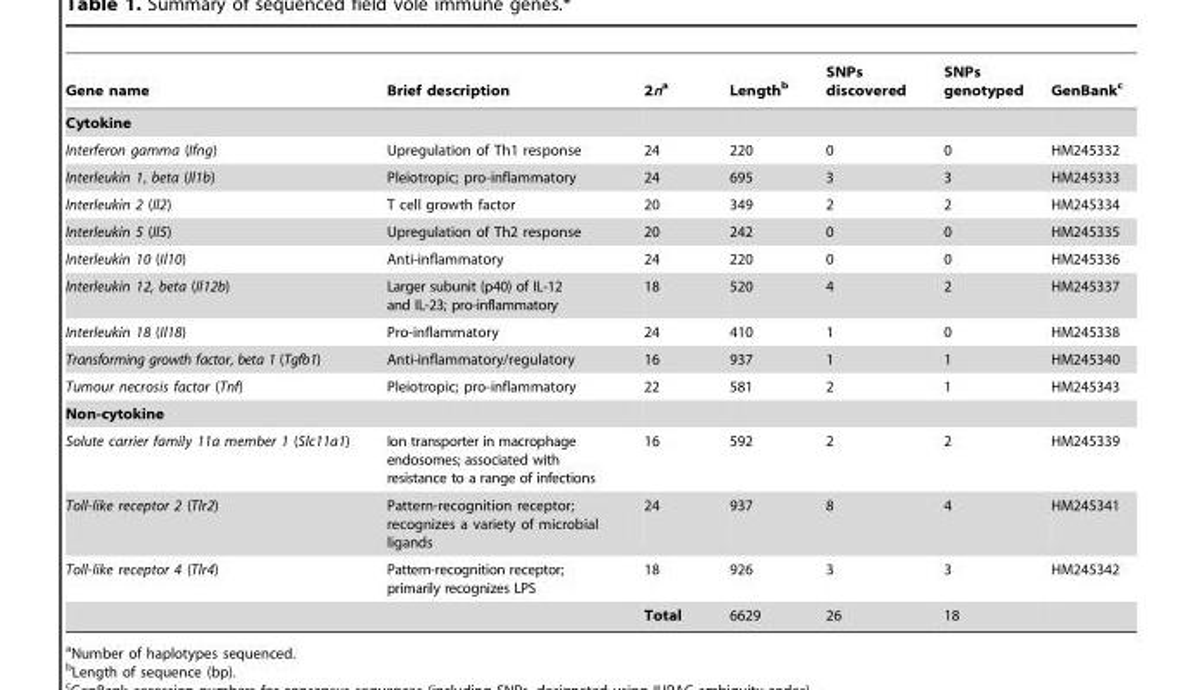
<table><thead><tr><td>Gene name</td><td>Brief description</td><td>2na</td><td>Length<sup>b</sup></td><td>SNPs discovered</td><td>SNPs genotyped</td><td>GenBank<sup>c</sup></td></tr></thead><tbody><tr><td colspan="7">Cytokine</td></tr><tr><td>Interferon gamma (Ifng)</td><td>Upregulation of Th1 response</td><td>24</td><td>220</td><td>0</td><td>0</td><td>HM245332</td></tr><tr><td>Interleukin 1, beta (Il1b)</td><td>Pleiotropic; pro-inflammatory</td><td>24</td><td>695</td><td>3</td><td>3</td><td>HM245333</td></tr><tr><td>Interleukin 2 (Il2)</td><td>T cell growth factor</td><td>20</td><td>349</td><td>2</td><td>2</td><td>HM245334</td></tr><tr><td>Interleukin 5 (Il5)</td><td>Upregulation of Th2 response</td><td>20</td><td>242</td><td>0</td><td>0</td><td>HM245335</td></tr><tr><td>Interleukin 10 (Il10)</td><td>Anti-inflammatory</td><td>24</td><td>220</td><td>0</td><td>0</td><td>HM245336</td></tr><tr><td>Interleukin 12, beta (Il12b)</td><td>Larger subunit (p40) of IL-12 and IL-23; pro-inflammatory</td><td>18</td><td>520</td><td>4</td><td>2</td><td>HM245337</td></tr><tr><td>Interleukin 18 (Il18)</td><td>Pro-inflammatory</td><td>24</td><td>410</td><td>1</td><td>0</td><td>HM245338</td></tr><tr><td>Transforming growth factor, beta 1 (Tgfb1)</td><td>Anti-inflammatory/regulatory</td><td>16</td><td>937</td><td>1</td><td>1</td><td>HM245340</td></tr><tr><td>Tumour necrosis factor (Tnf)</td><td>Pleiotropic; pro-inflammatory</td><td>22</td><td>581</td><td>2</td><td>1</td><td>HM245343</td></tr><tr><td colspan="7">Non-cytokine</td></tr><tr><td>Solute carrier family 11a member 1 (Slc11a1)</td><td>Ion transporter in macrophage endosomes; associated with resistance to a range of infections</td><td>16</td><td>592</td><td>2</td><td>2</td><td>HM245339</td></tr><tr><td>Toll-like receptor 2 (Tlr2)</td><td>Pattern-recognition receptor; recognizes a variety of microbial ligands</td><td>24</td><td>937</td><td>8</td><td>4</td><td>HM245341</td></tr><tr><td rowspan="2">Toll-like receptor 4 (Tlr4)</td><td>Pattern-recognition receptor; primarily recognizes LPS</td><td>18</td><td>926</td><td>3</td><td>3</td><td>HM245342</td></tr><tr><td></td><td>Total</td><td>6629</td><td>26</td><td>18</td><td></td></tr></tbody></table>